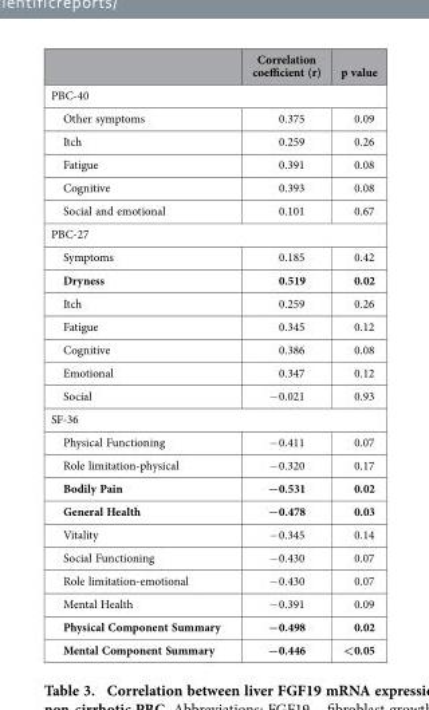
<table><thead><tr><td></td><td>Correlation coefficient (r)</td><td>p value</td></tr></thead><tbody><tr><td colspan="3">PBC-40</td></tr><tr><td>Other symptoms</td><td>0.375</td><td>0.09</td></tr><tr><td>Itch</td><td>0.259</td><td>0.26</td></tr><tr><td>Fatigue</td><td>0.391</td><td>0.08</td></tr><tr><td>Cognitive</td><td>0.393</td><td>0.08</td></tr><tr><td>Social and emotional</td><td>0.101</td><td>0.67</td></tr><tr><td colspan="3">PBC-27</td></tr><tr><td>Symptoms</td><td>0.185</td><td>0.42</td></tr><tr><td>Dryness</td><td>0.519</td><td>0.02</td></tr><tr><td>Itch</td><td>0.259</td><td>0.26</td></tr><tr><td>Fatigue</td><td>0.345</td><td>0.12</td></tr><tr><td>Cognitive</td><td>0.386</td><td>0.08</td></tr><tr><td>Emotional</td><td>0.347</td><td>0.12</td></tr><tr><td>Social</td><td>− 0.021</td><td>0.93</td></tr><tr><td colspan="3">SF-36</td></tr><tr><td>Physical Functioning</td><td>− 0.411</td><td>0.07</td></tr><tr><td>Role limitation-physical</td><td>− 0.320</td><td>0.17</td></tr><tr><td>Bodily Pain</td><td>−0.531</td><td>0.02</td></tr><tr><td>General Health</td><td>−0.478</td><td>0.03</td></tr><tr><td>Vitality</td><td>− 0.345</td><td>0.14</td></tr><tr><td>Social Functioning</td><td>− 0.430</td><td>0.07</td></tr><tr><td>Role limitation-emotional</td><td>− 0.430</td><td>0.07</td></tr><tr><td>Mental Health</td><td>− 0.391</td><td>0.09</td></tr><tr><td>Physical Component Summary</td><td>−0.498</td><td>0.02</td></tr><tr><td>Mental Component Summary</td><td>−0.446</td><td>&lt;0.05</td></tr></tbody></table>